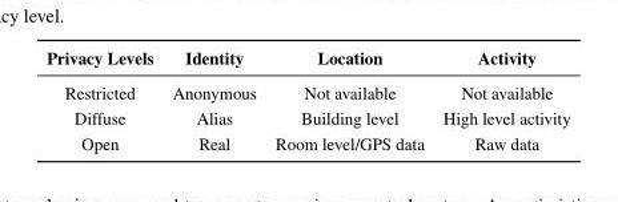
<table><thead><tr><td>Privacy Levels</td><td>Identity</td><td>Location</td><td>Activity</td></tr></thead><tbody><tr><td>Restricted</td><td>Anonymous</td><td>Not available</td><td>Not available</td></tr><tr><td>Diffuse</td><td>Alias</td><td>Building level</td><td>High level activity</td></tr><tr><td>Open</td><td>Real</td><td>Room level/GPS data</td><td>Raw data</td></tr></tbody></table>